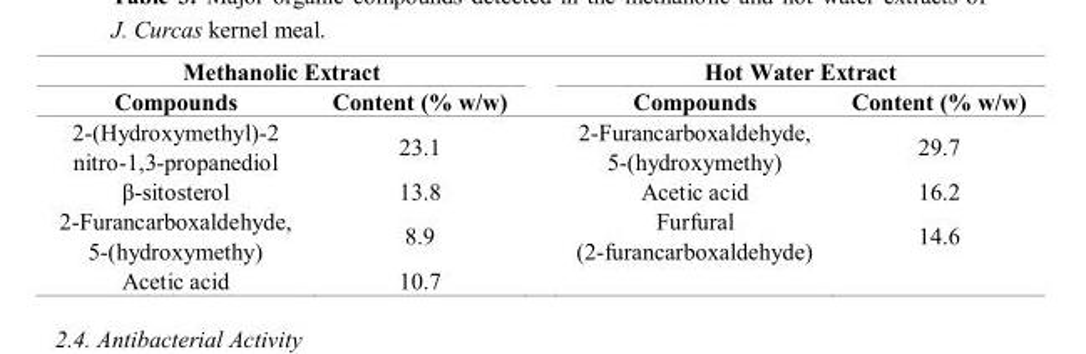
<table><thead><tr><td colspan="2">Methanolic Extract</td><td colspan="2">Hot Water Extract</td></tr><tr><td>Compounds</td><td>Content (% w/w)</td><td>Compounds</td><td>Content (% w/w)</td></tr></thead><tbody><tr><td>2-(Hydroxymethyl)-2 nitro-1,3-propanediol</td><td>23.1</td><td>2-Furancarboxaldehyde, 5-(hydroxymethy)</td><td>29.7</td></tr><tr><td>β-sitosterol</td><td>13.8</td><td>Acetic acid</td><td>16.2</td></tr><tr><td>2-Furancarboxaldehyde, 5-(hydroxymethy)</td><td>8.9</td><td>Furfural (2-furancarboxaldehyde)</td><td>14.6</td></tr><tr><td>Acetic acid</td><td>10.7</td><td></td><td></td></tr></tbody></table>